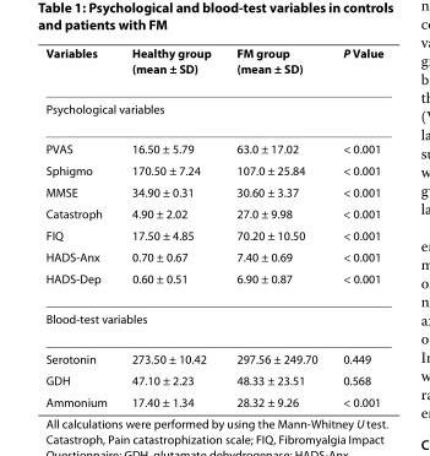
<table><thead><tr><td>Variables</td><td>Healthy group (mean ± SD)</td><td>FM group (mean ± SD)</td><td>P Value</td></tr></thead><tbody><tr><td colspan="4">Psychological variables</td></tr><tr><td>PVAS</td><td>16.50 ± 5.79</td><td>63.0 ± 17.02</td><td>&lt; 0.001</td></tr><tr><td>Sphigmo</td><td>170.50 ± 7.24</td><td>107.0 ± 25.84</td><td>&lt; 0.001</td></tr><tr><td>MMSE</td><td>34.90 ± 0.31</td><td>30.60 ± 3.37</td><td>&lt; 0.001</td></tr><tr><td>Catastroph</td><td>4.90 ± 2.02</td><td>27.0 ± 9.98</td><td>&lt; 0.001</td></tr><tr><td>FIQ</td><td>17.50 ± 4.85</td><td>70.20 ± 10.50</td><td>&lt; 0.001</td></tr><tr><td>HADS-Anx</td><td>0.70 ± 0.67</td><td>7.40 ± 0.69</td><td>&lt; 0.001</td></tr><tr><td>HADS-Dep</td><td>0.60 ± 0.51</td><td>6.90 ± 0.87</td><td>&lt; 0.001</td></tr><tr><td colspan="4">Blood-test variables</td></tr><tr><td>Serotonin</td><td>273.50 ± 10.42</td><td>297.56 ± 249.70</td><td>0.449</td></tr><tr><td>GDH</td><td>47.10 ± 2.23</td><td>48.33 ± 23.51</td><td>0.568</td></tr><tr><td>Ammonium</td><td>17.40 ± 1.34</td><td>28.32 ± 9.26</td><td>&lt; 0.001</td></tr></tbody></table>